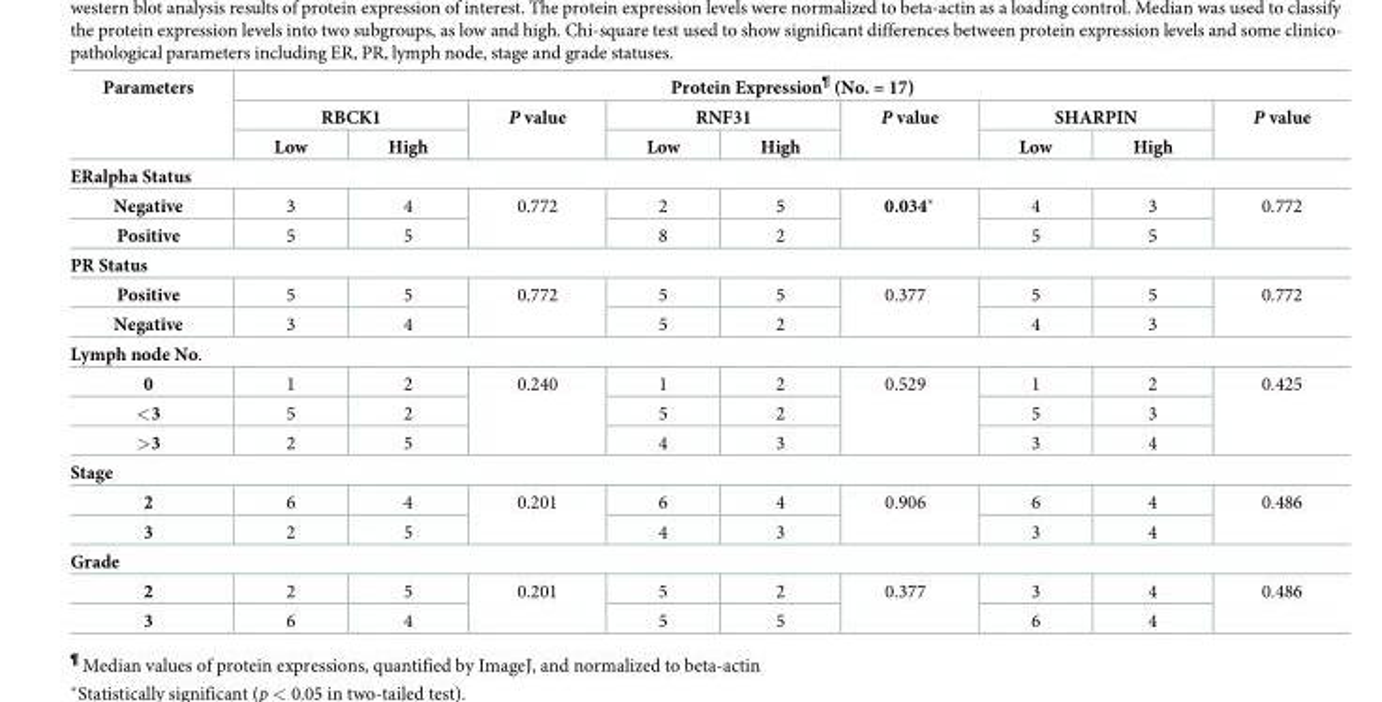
<table><thead><tr><td rowspan="3">Parameters</td><td colspan="9">Protein Expression<sup>¶</sup> (No. = 17)</td></tr><tr><td colspan="2">RBCK1</td><td rowspan="2">P value</td><td colspan="2">RNF31</td><td rowspan="2">P value</td><td colspan="2">SHARPIN</td><td rowspan="2">P value</td></tr><tr><td>Low</td><td>High</td><td>Low</td><td>High</td><td>Low</td><td>High</td></tr></thead><tbody><tr><td colspan="10">ERalpha Status</td></tr><tr><td>Negative</td><td>3</td><td>4</td><td rowspan="2">0.772</td><td>2</td><td>5</td><td rowspan="2">0.034*</td><td>4</td><td>3</td><td rowspan="2">0.772</td></tr><tr><td>Positive</td><td>5</td><td>5</td><td>8</td><td>2</td><td>5</td><td>5</td></tr><tr><td colspan="10">PR Status</td></tr><tr><td>Positive</td><td>5</td><td>5</td><td rowspan="2">0.772</td><td>5</td><td>5</td><td rowspan="2">0.377</td><td>5</td><td>5</td><td rowspan="2">0.772</td></tr><tr><td>Negative</td><td>3</td><td>4</td><td>5</td><td>2</td><td>4</td><td>3</td></tr><tr><td colspan="10">Lymph node No.</td></tr><tr><td>0</td><td>1</td><td>2</td><td rowspan="3">0.240</td><td>1</td><td>2</td><td rowspan="3">0.529</td><td>1</td><td>2</td><td rowspan="3">0.425</td></tr><tr><td>&lt;3</td><td>5</td><td>2</td><td>5</td><td>2</td><td>5</td><td>3</td></tr><tr><td>&gt;3</td><td>2</td><td>5</td><td>4</td><td>3</td><td>3</td><td>4</td></tr><tr><td colspan="10">Stage</td></tr><tr><td>2</td><td>6</td><td>4</td><td rowspan="2">0.201</td><td>6</td><td>4</td><td rowspan="2">0.906</td><td>6</td><td>4</td><td rowspan="2">0.486</td></tr><tr><td>3</td><td>2</td><td>5</td><td>4</td><td>3</td><td>3</td><td>4</td></tr><tr><td colspan="10">Grade</td></tr><tr><td>2</td><td>2</td><td>5</td><td rowspan="2">0.201</td><td>5</td><td>2</td><td rowspan="2">0.377</td><td>3</td><td>4</td><td rowspan="2">0.486</td></tr><tr><td>3</td><td>6</td><td>4</td><td>5</td><td>5</td><td>6</td><td>4</td></tr></tbody></table>